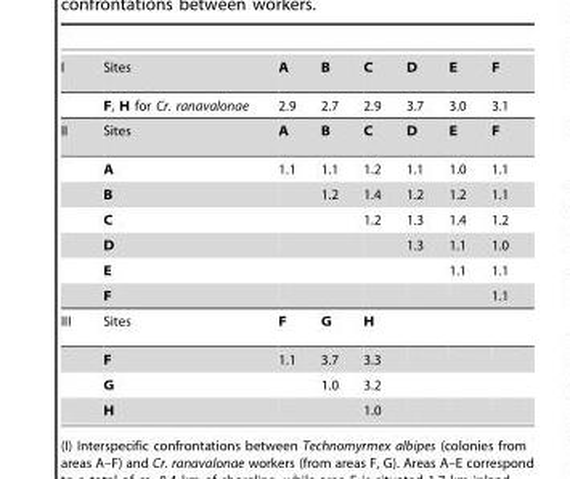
<table><tbody><tr><td rowspan="2">I</td><td>Sites</td><td>A</td><td>B</td><td>C</td><td>D</td><td>E</td><td>F</td></tr><tr><td>F, H for Cr. ranavalonae</td><td>2.9</td><td>2.7</td><td>2.9</td><td>3.7</td><td>3.0</td><td>3.1</td></tr><tr><td rowspan="7">II</td><td>Sites</td><td>A</td><td>B</td><td>C</td><td>D</td><td>E</td><td>F</td></tr><tr><td>A</td><td>1.1</td><td>1.1</td><td>1.2</td><td>1.1</td><td>1.0</td><td>1.1</td></tr><tr><td>B</td><td></td><td>1.2</td><td>1.4</td><td>1.2</td><td>1.2</td><td>1.1</td></tr><tr><td>C</td><td></td><td></td><td>1.2</td><td>1.3</td><td>1.4</td><td>1.2</td></tr><tr><td>D</td><td></td><td></td><td></td><td>1.3</td><td>1.1</td><td>1.0</td></tr><tr><td>E</td><td></td><td></td><td></td><td></td><td>1.1</td><td>1.1</td></tr><tr><td>F</td><td></td><td></td><td></td><td></td><td></td><td>1.1</td></tr><tr><td rowspan="4">III</td><td>Sites</td><td>F</td><td>G</td><td>H</td><td></td><td></td><td></td></tr><tr><td>F</td><td>1.1</td><td>3.7</td><td>3.3</td><td></td><td></td><td></td></tr><tr><td>G</td><td></td><td>1.0</td><td>3.2</td><td></td><td></td><td></td></tr><tr><td>H</td><td></td><td></td><td>1.0</td><td></td><td></td><td></td></tr></tbody></table>